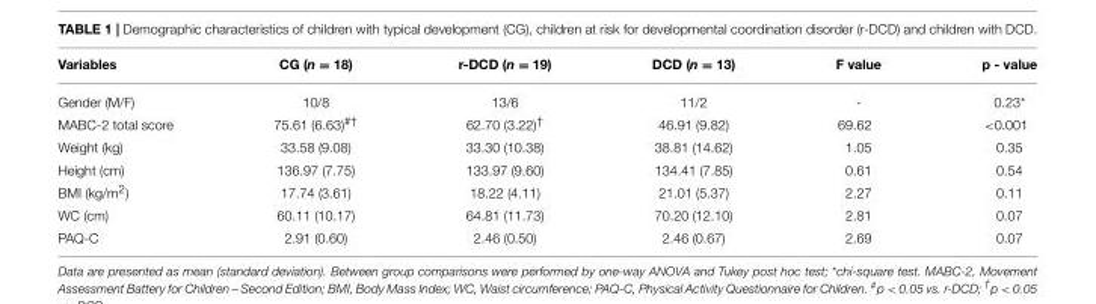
<table><thead><tr><td>Variables</td><td>CG (n = 18)</td><td>r-DCD (n = 19)</td><td>DCD (n = 13)</td><td>F value</td><td>p - value</td></tr></thead><tbody><tr><td>Gender (M/F)</td><td>10/8</td><td>13/6</td><td>11/2</td><td>-</td><td>0.23*</td></tr><tr><td>MABC-2 total score</td><td>75.61 (6.63)<sup>#†</sup></td><td>62.70 (3.22)<sup>†</sup></td><td>46.91 (9.82)</td><td>69.62</td><td>&lt;0.001</td></tr><tr><td>Weight (kg)</td><td>33.58 (9.08)</td><td>33.30 (10.38)</td><td>38.81 (14.62)</td><td>1.05</td><td>0.35</td></tr><tr><td>Height (cm)</td><td>136.97 (7.75)</td><td>133.97 (9.60)</td><td>134.41 (7.85)</td><td>0.61</td><td>0.54</td></tr><tr><td>BMI (kg/m<sup>2</sup>)</td><td>17.74 (3.61)</td><td>18.22 (4.11)</td><td>21.01 (5.37)</td><td>2.27</td><td>0.11</td></tr><tr><td>WC (cm)</td><td>60.11 (10.17)</td><td>64.81 (11.73)</td><td>70.20 (12.10)</td><td>2.81</td><td>0.07</td></tr><tr><td>PAQ-C</td><td>2.91 (0.60)</td><td>2.46 (0.50)</td><td>2.46 (0.67)</td><td>2.69</td><td>0.07</td></tr></tbody></table>